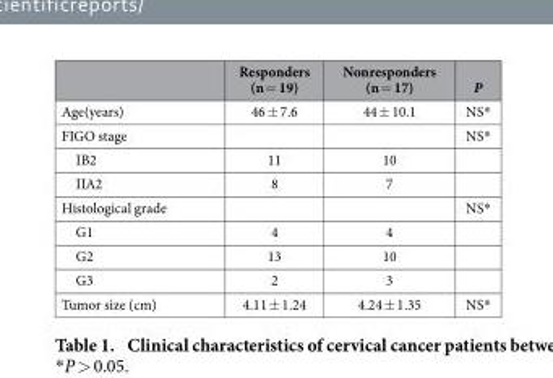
<table><thead><tr><td></td><td>Responders (n = 19)</td><td>Nonresponders (n = 17)</td><td>P</td></tr></thead><tbody><tr><td>Age(years)</td><td>46 ± 7.6</td><td>44 ± 10.1</td><td>NS*</td></tr><tr><td>FIGO stage</td><td></td><td></td><td>NS*</td></tr><tr><td>IB2</td><td>11</td><td>10</td><td></td></tr><tr><td>IIA2</td><td>8</td><td>7</td><td></td></tr><tr><td>Histological grade</td><td></td><td></td><td>NS*</td></tr><tr><td>G1</td><td>4</td><td>4</td><td></td></tr><tr><td>G2</td><td>13</td><td>10</td><td></td></tr><tr><td>G3</td><td>2</td><td>3</td><td></td></tr><tr><td>Tumor size (cm)</td><td>4.11 ± 1.24</td><td>4.24 ± 1.35</td><td>NS*</td></tr></tbody></table>